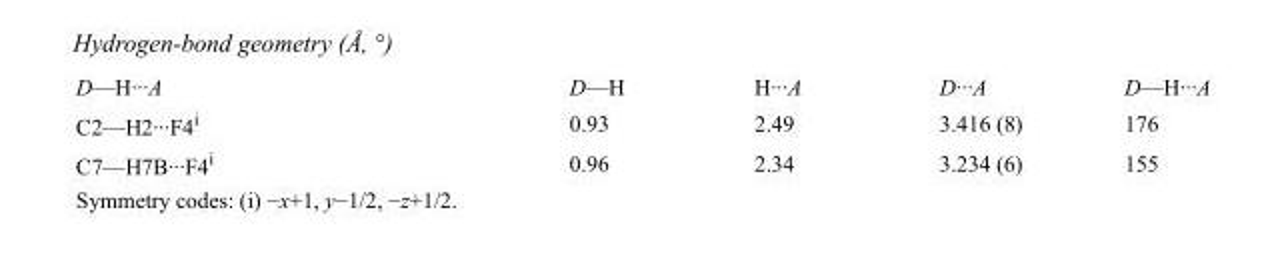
<table><tbody><tr><td>D—H···A</td><td>D—H</td><td>H···A</td><td>D···A</td><td>D—H···A</td></tr><tr><td>C2—H2···F4<sup>i</sup></td><td>0.93</td><td>2.49</td><td>3.416 (8)</td><td>176</td></tr><tr><td>C7—H7B···F4<sup>i</sup></td><td>0.96</td><td>2.34</td><td>3.234 (6)</td><td>155</td></tr></tbody></table>